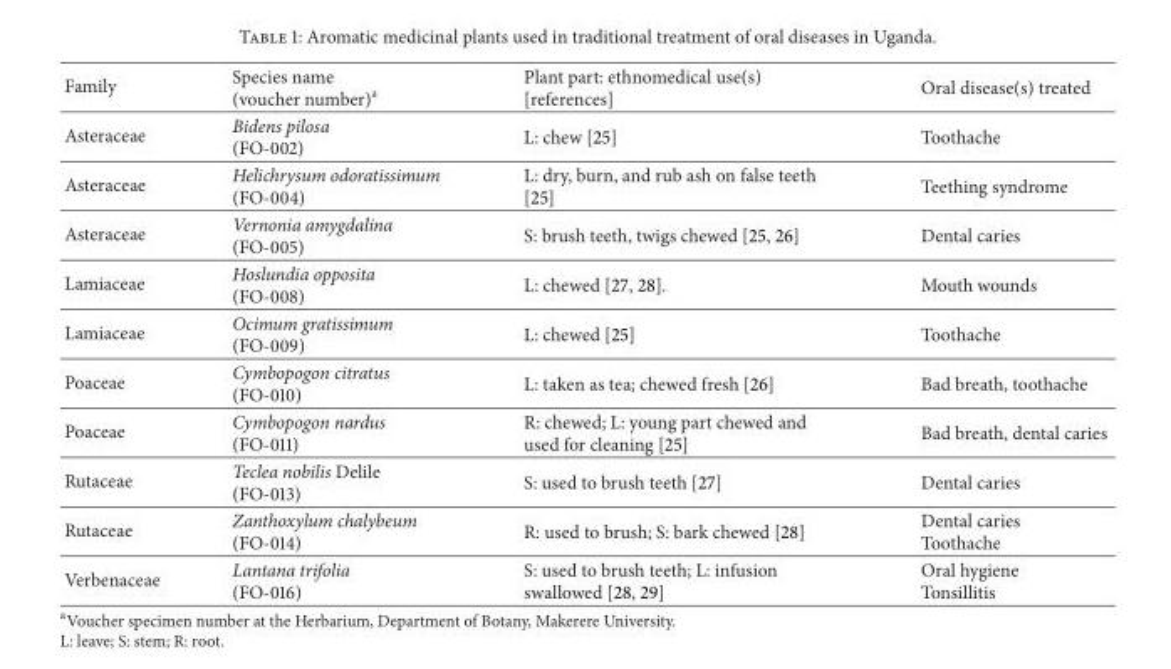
<table><thead><tr><td>Family</td><td>Species name (voucher number)<sup>a</sup></td><td>Plant part: ethnomedical use(s) [references]</td><td>Oral disease(s) treated</td></tr></thead><tbody><tr><td>Asteraceae</td><td>Bidens pilosa (FO-002)</td><td>L: chew [25]</td><td>Toothache</td></tr><tr><td>Asteraceae</td><td>Helichrysum odoratissimum (FO-004)</td><td>L: dry, burn, and rub ash on false teeth [25]</td><td>Teething syndrome</td></tr><tr><td>Asteraceae</td><td>Vernonia amygdalina (FO-005)</td><td>S: brush teeth, twigs chewed [25, 26]</td><td>Dental caries</td></tr><tr><td>Lamiaceae</td><td>Hoslundia opposita (FO-008)</td><td>L: chewed [27, 28].</td><td>Mouth wounds</td></tr><tr><td>Lamiaceae</td><td>Ocimum gratissimum (FO-009)</td><td>L: chewed [25]</td><td>Toothache</td></tr><tr><td>Poaceae</td><td>Cymbopogon citratus (FO-010)</td><td>L: taken as tea; chewed fresh [26]</td><td>Bad breath, toothache</td></tr><tr><td>Poaceae</td><td>Cymbopogon nardus (FO-011)</td><td>R: chewed; L: young part chewed and used for cleaning [25]</td><td>Bad breath, dental caries</td></tr><tr><td>Rutaceae</td><td>Teclea nobilis Delile (FO-013)</td><td>S: used to brush teeth [27]</td><td>Dental caries</td></tr><tr><td>Rutaceae</td><td>Zanthoxylum chalybeum (FO-014)</td><td>R: used to brush; S: bark chewed [28]</td><td>Dental caries Toothache</td></tr><tr><td>Verbenaceae</td><td>Lantana trifolia (FO-016)</td><td>S: used to brush teeth; L: infusion swallowed [28, 29]</td><td>Oral hygiene Tonsillitis</td></tr></tbody></table>